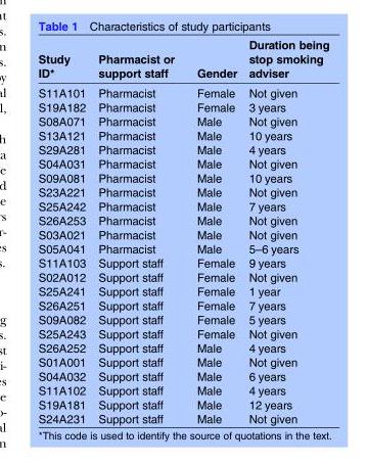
<table><thead><tr><td>Study ID*</td><td>Pharmacist or support staff</td><td>Gender</td><td>Duration being stop smoking adviser</td></tr></thead><tbody><tr><td>S11A101</td><td>Pharmacist</td><td>Female</td><td>Not given</td></tr><tr><td>S19A182</td><td>Pharmacist</td><td>Female</td><td>3 years</td></tr><tr><td>S08A071</td><td>Pharmacist</td><td>Male</td><td>Not given</td></tr><tr><td>S13A121</td><td>Pharmacist</td><td>Male</td><td>10 years</td></tr><tr><td>S29A281</td><td>Pharmacist</td><td>Male</td><td>4 years</td></tr><tr><td>S04A031</td><td>Pharmacist</td><td>Male</td><td>Not given</td></tr><tr><td>S09A081</td><td>Pharmacist</td><td>Male</td><td>10 years</td></tr><tr><td>S23A221</td><td>Pharmacist</td><td>Male</td><td>Not given</td></tr><tr><td>S25A242</td><td>Pharmacist</td><td>Male</td><td>7 years</td></tr><tr><td>S26A253</td><td>Pharmacist</td><td>Male</td><td>Not given</td></tr><tr><td>S03A021</td><td>Pharmacist</td><td>Male</td><td>Not given</td></tr><tr><td>S05A041</td><td>Pharmacist</td><td>Male</td><td>5–6 years</td></tr><tr><td>S11A103</td><td>Support staff</td><td>Female</td><td>9 years</td></tr><tr><td>S02A012</td><td>Support staff</td><td>Female</td><td>Not given</td></tr><tr><td>S25A241</td><td>Support staff</td><td>Female</td><td>1 year</td></tr><tr><td>S26A251</td><td>Support staff</td><td>Female</td><td>7 years</td></tr><tr><td>S09A082</td><td>Support staff</td><td>Female</td><td>5 years</td></tr><tr><td>S25A243</td><td>Support staff</td><td>Female</td><td>Not given</td></tr><tr><td>S26A252</td><td>Support staff</td><td>Male</td><td>4 years</td></tr><tr><td>S01A001</td><td>Support staff</td><td>Male</td><td>Not given</td></tr><tr><td>S04A032</td><td>Support staff</td><td>Male</td><td>6 years</td></tr><tr><td>S11A102</td><td>Support staff</td><td>Male</td><td>4 years</td></tr><tr><td>S19A181</td><td>Support staff</td><td>Male</td><td>12 years</td></tr><tr><td>S24A231</td><td>Support staff</td><td>Male</td><td>Not given</td></tr></tbody></table>